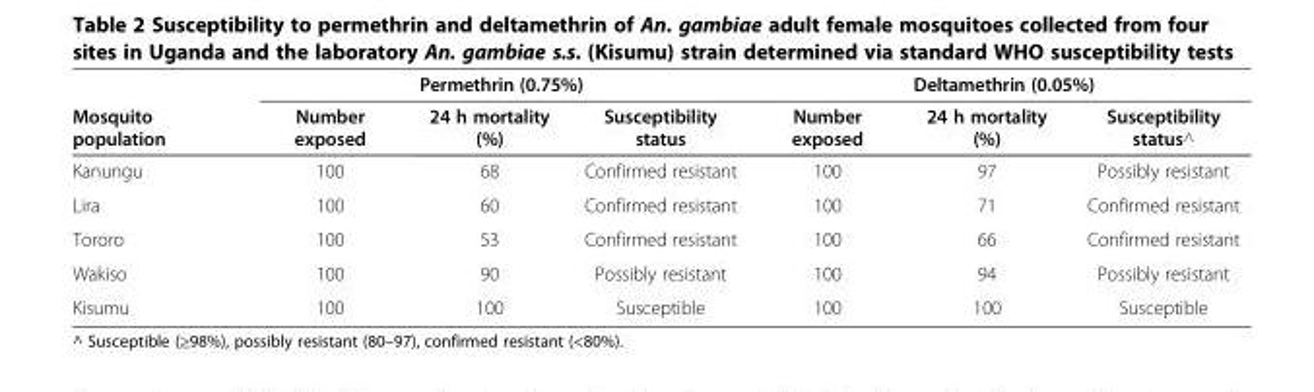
<table><thead><tr><td rowspan="2">Mosquito population</td><td colspan="3">Permethrin (0.75%)</td><td colspan="3">Deltamethrin (0.05%)</td></tr><tr><td>Number exposed</td><td>24 h mortality (%)</td><td>Susceptibility status</td><td>Number exposed</td><td>24 h mortality (%)</td><td>Susceptibility status^</td></tr></thead><tbody><tr><td>Kanungu</td><td>100</td><td>68</td><td>Confirmed resistant</td><td>100</td><td>97</td><td>Possibly resistant</td></tr><tr><td>Lira</td><td>100</td><td>60</td><td>Confirmed resistant</td><td>100</td><td>71</td><td>Confirmed resistant</td></tr><tr><td>Tororo</td><td>100</td><td>53</td><td>Confirmed resistant</td><td>100</td><td>66</td><td>Confirmed resistant</td></tr><tr><td>Wakiso</td><td>100</td><td>90</td><td>Possibly resistant</td><td>100</td><td>94</td><td>Possibly resistant</td></tr><tr><td>Kisumu</td><td>100</td><td>100</td><td>Susceptible</td><td>100</td><td>100</td><td>Susceptible</td></tr></tbody></table>